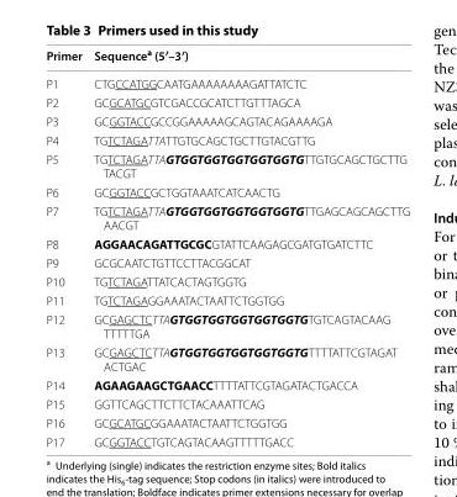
<table><thead><tr><td>Primer</td><td>Sequence<sup>a</sup> (5′–3′)</td></tr></thead><tbody><tr><td>P1</td><td>CTGCCATGGCAATGAAAAAAAAGATTATCTC</td></tr><tr><td>P2</td><td>GCGCATGCGTCGACCGCATCTTGTTTAGCA</td></tr><tr><td>P3</td><td>GCGGTACCGCCGGAAAAAGCAGTACAGAAAAGA</td></tr><tr><td>P4</td><td>TGTCTAGATTATTGTGCAGCTGCTTGTACGTTG</td></tr><tr><td>P5</td><td>TGTCTAGATTAGTGGTGGTGGTGGTGGTGTTGTGCAGCTGCTTG TACGT</td></tr><tr><td>P6</td><td>GCGGTACCGCTGGTAAATCATCAACTG</td></tr><tr><td>P7</td><td>TGTCTAGATTAGTGGTGGTGGTGGTGGTGTTGAGCAGCAGCTTG AACGT</td></tr><tr><td>P8</td><td>AGGAACAGATTGCGCGTATTCAAGAGCGATGTGATCTTC</td></tr><tr><td>P9</td><td>GCGCAATCTGTTCCTTACGGCAT</td></tr><tr><td>P10</td><td>TGTCTAGATTATCACTAGTGGTG</td></tr><tr><td>P11</td><td>TGTCTAGAGGAAATACTAATTCTGGTGG</td></tr><tr><td>P12</td><td>GCGAGCTCTTAGTGGTGGTGGTGGTGGTGTGTCAGTACAAG TTTTTGA</td></tr><tr><td>P13</td><td>GCGAGCTCTTAGTGGTGGTGGTGGTGGTGTTTTATTCGTAGAT ACTGAC</td></tr><tr><td>P14</td><td>AGAAGAAGCTGAACCTTTTATTCGTAGATACTGACCA</td></tr><tr><td>P15</td><td>GGTTCAGCTTCTTCTACAAATTCAG</td></tr><tr><td>P16</td><td>GCGCATGCGGAAATACTAATTCTGGTGG</td></tr><tr><td>P17</td><td>GCGGTACCTGTCAGTACAAGTTTTTGACC</td></tr></tbody></table>